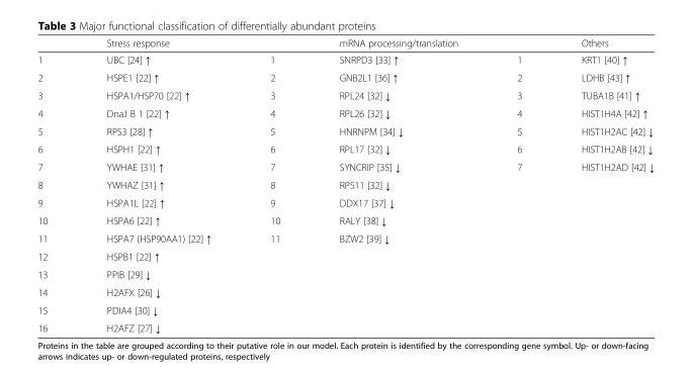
<table><thead><tr><td></td><td>Stress response</td><td></td><td>mRNA processing/translation</td><td></td><td>Others</td></tr></thead><tbody><tr><td>1</td><td>UBC [24] ↑</td><td>1</td><td>SNRPD3 [33] ↑</td><td>1</td><td>KRT1 [40] ↑</td></tr><tr><td>2</td><td>HSPE1 [22] ↑</td><td>2</td><td>GNB2L1 [36] ↑</td><td>2</td><td>LDHB [43] ↑</td></tr><tr><td>3</td><td>HSPA1/HSP70 [22] ↑</td><td>3</td><td>RPL24 [32] ↓</td><td>3</td><td>TUBA1B [41] ↑</td></tr><tr><td>4</td><td>DnaJ B 1 [22] ↑</td><td>4</td><td>RPL26 [32] ↓</td><td>4</td><td>HIST1H4A [42] ↑</td></tr><tr><td>5</td><td>RPS3 [28] ↑</td><td>5</td><td>HNRNPM [34] ↓</td><td>5</td><td>HIST1H2AC [42] ↓</td></tr><tr><td>6</td><td>HSPH1 [22] ↑</td><td>6</td><td>RPL17 [32] ↓</td><td>6</td><td>HIST1H2AB [42] ↓</td></tr><tr><td>7</td><td>YWHAE [31] ↑</td><td>7</td><td>SYNCRIP [35] ↓</td><td>7</td><td>HIST1H2AD [42] ↓</td></tr><tr><td>8</td><td>YWHAZ [31] ↑</td><td>8</td><td>RPS11 [32] ↓</td><td></td><td></td></tr><tr><td>9</td><td>HSPA1L [22] ↑</td><td>9</td><td>DDX17 [37] ↓</td><td></td><td></td></tr><tr><td>10</td><td>HSPA6 [22] ↑</td><td>10</td><td>RALY [38] ↓</td><td></td><td></td></tr><tr><td>11</td><td>HSPA7 (HSP90AA1) [22] ↑</td><td>11</td><td>BZW2 [39] ↓</td><td></td><td></td></tr><tr><td>12</td><td>HSPB1 [22] ↑</td><td></td><td></td><td></td><td></td></tr><tr><td>13</td><td>PPIB [29] ↓</td><td></td><td></td><td></td><td></td></tr><tr><td>14</td><td>H2AFX [26] ↓</td><td></td><td></td><td></td><td></td></tr><tr><td>15</td><td>PDIA4 [30] ↓</td><td></td><td></td><td></td><td></td></tr><tr><td>16</td><td>H2AFZ [27] ↓</td><td></td><td></td><td></td><td></td></tr></tbody></table>